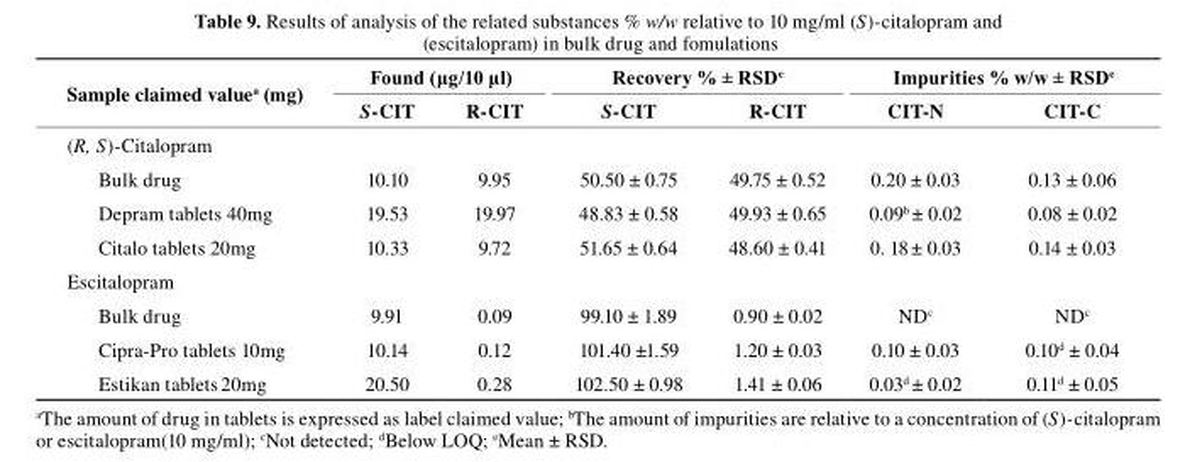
<table><thead><tr><td rowspan="2">sample claimed value<sup>a</sup> (mg)</td><td colspan="2">Found (μg/10 μl)</td><td colspan="2">Recovery % ± RSD<sup>e</sup></td><td colspan="2">Impurities % w/w ± RSD<sup>e</sup></td></tr><tr><td>S-cIt</td><td>r-cIt</td><td>S-cIt</td><td>r-cIt</td><td>cIt-N</td><td>cIt-c</td></tr></thead><tbody><tr><td colspan="7">(R, S)-Citalopram</td></tr><tr><td>Bulk drug</td><td>10.10</td><td>9.95</td><td>50.50 ± 0.75</td><td>49.75 ± 0.52</td><td>0.20 ± 0.03</td><td>0.13 ± 0.06</td></tr><tr><td>Depram tablets 40mg</td><td>19.53</td><td>19.97</td><td>48.83 ± 0.58</td><td>49.93 ± 0.65</td><td>0.09<sup>b</sup> ± 0.02</td><td>0.08 ± 0.02</td></tr><tr><td>Citalo tablets 20mg</td><td>10.33</td><td>9.72</td><td>51.65 ± 0.64</td><td>48.60 ± 0.41</td><td>0. 18 ± 0.03</td><td>0.14 ± 0.03</td></tr><tr><td colspan="7">Escitalopram</td></tr><tr><td>Bulk drug</td><td>9.91</td><td>0.09</td><td>99.10 ± 1.89</td><td>0.90 ± 0.02</td><td>ND<sup>c</sup></td><td>ND<sup>c</sup></td></tr><tr><td>Cipra-Pro tablets 10mg</td><td>10.14</td><td>0.12</td><td>101.40 ±1.59</td><td>1.20 ± 0.03</td><td>0.10 ± 0.03</td><td>0.10<sup>d</sup> ± 0.04</td></tr><tr><td>Estikan tablets 20mg</td><td>20.50</td><td>0.28</td><td>102.50 ± 0.98</td><td>1.41 ± 0.06</td><td>0.03<sup>d</sup> ± 0.02</td><td>0.11<sup>d</sup> ± 0.05</td></tr></tbody></table>